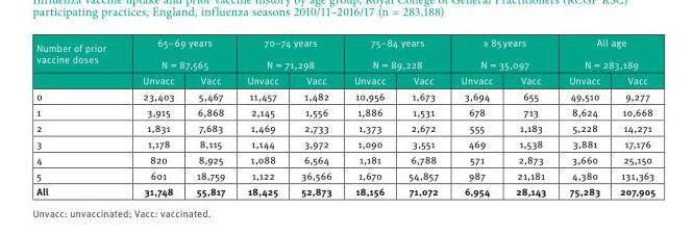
<table><thead><tr><td rowspan="2">Number of prior vaccine doses</td><td colspan="2">65–69 years N = 87,565</td><td colspan="2">70–74 years N = 71,298</td><td colspan="2">75–84 years N = 89,228</td><td colspan="2">≥ 85 years N = 35,097</td><td colspan="2">All age N = 283,189</td></tr><tr><td>Unvacc</td><td>Vacc</td><td>Unvacc</td><td>Vacc</td><td>Unvacc</td><td>Vacc</td><td>Unvacc</td><td>Vacc</td><td>Unvacc</td><td>Vacc</td></tr></thead><tbody><tr><td>0</td><td>23,403</td><td>5,467</td><td>11,457</td><td>1,482</td><td>10,956</td><td>1,673</td><td>3,694</td><td>655</td><td>49,510</td><td>9,277</td></tr><tr><td>1</td><td>3,915</td><td>6,868</td><td>2,145</td><td>1,556</td><td>1,886</td><td>1,531</td><td>678</td><td>713</td><td>8,624</td><td>10,668</td></tr><tr><td>2</td><td>1,831</td><td>7,683</td><td>1,469</td><td>2,733</td><td>1,373</td><td>2,672</td><td>555</td><td>1,183</td><td>5,228</td><td>14,271</td></tr><tr><td>3</td><td>1,178</td><td>8,115</td><td>1,144</td><td>3,972</td><td>1,090</td><td>3,551</td><td>469</td><td>1,538</td><td>3,881</td><td>17,176</td></tr><tr><td>4</td><td>820</td><td>8,925</td><td>1,088</td><td>6,564</td><td>1,181</td><td>6,788</td><td>571</td><td>2,873</td><td>3,660</td><td>25,150</td></tr><tr><td>5</td><td>601</td><td>18,759</td><td>1,122</td><td>36,566</td><td>1,670</td><td>54,857</td><td>987</td><td>21,181</td><td>4,380</td><td>131,363</td></tr><tr><td>All</td><td>31,748</td><td>55,817</td><td>18,425</td><td>52,873</td><td>18,156</td><td>71,072</td><td>6,954</td><td>28,143</td><td>75,283</td><td>207,905</td></tr></tbody></table>